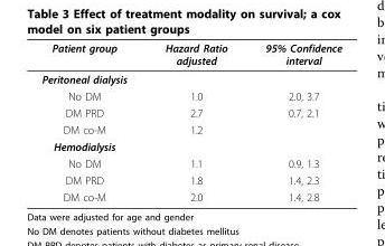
<table><thead><tr><td>Patient group</td><td>Hazard Ratio adjusted</td><td>95% Confidence interval</td></tr></thead><tbody><tr><td colspan="3">Peritoneal dialysis</td></tr><tr><td>No DM</td><td>1.0</td><td>2.0, 3.7</td></tr><tr><td>DM PRD</td><td>2.7</td><td>0.7, 2.1</td></tr><tr><td>DM co-M</td><td>1.2</td><td></td></tr><tr><td colspan="3">Hemodialysis</td></tr><tr><td>No DM</td><td>1.1</td><td>0.9, 1.3</td></tr><tr><td>DM PRD</td><td>1.8</td><td>1.4, 2.3</td></tr><tr><td>DM co-M</td><td>2.0</td><td>1.4, 2.8</td></tr></tbody></table>